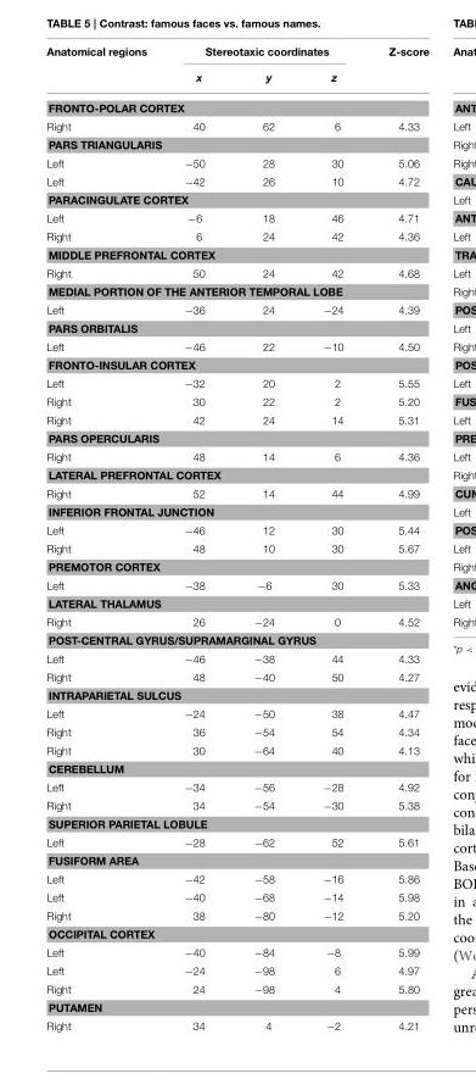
<table><thead><tr><td rowspan="2">Anatomical regions</td><td colspan="3">Stereotaxic coordinates</td><td rowspan="2">Z-score</td></tr><tr><td>x</td><td>y</td><td>z</td></tr></thead><tbody><tr><td colspan="5">FRONTO-POLAR CORTEX</td></tr><tr><td>Right</td><td>40</td><td>62</td><td>6</td><td>4.33</td></tr><tr><td colspan="5">PARS TRIANGULARIS</td></tr><tr><td>Left</td><td>−50</td><td>28</td><td>30</td><td>5.06</td></tr><tr><td>Left</td><td>−42</td><td>26</td><td>10</td><td>4.72</td></tr><tr><td colspan="5">PARACINGULATE CORTEX</td></tr><tr><td>Left</td><td>−6</td><td>18</td><td>46</td><td>4.71</td></tr><tr><td>Right</td><td>6</td><td>24</td><td>42</td><td>4.36</td></tr><tr><td colspan="5">MIDDLE PREFRONTAL CORTEX</td></tr><tr><td>Right</td><td>50</td><td>24</td><td>42</td><td>4.68</td></tr><tr><td colspan="5">MEDIAL PORTION OF THE ANTERIOR TEMPORAL LOBE</td></tr><tr><td>Left</td><td>−36</td><td>24</td><td>−24</td><td>4.39</td></tr><tr><td colspan="5">PARS ORBITALIS</td></tr><tr><td>Left</td><td>−46</td><td>22</td><td>−10</td><td>4.50</td></tr><tr><td colspan="5">FRONTO-INSULAR CORTEX</td></tr><tr><td>Left</td><td>−32</td><td>20</td><td>2</td><td>5.55</td></tr><tr><td>Right</td><td>30</td><td>22</td><td>2</td><td>5.20</td></tr><tr><td>Right</td><td>42</td><td>24</td><td>14</td><td>5.31</td></tr><tr><td colspan="5">PARS OPERCULARIS</td></tr><tr><td>Right</td><td>48</td><td>14</td><td>6</td><td>4.36</td></tr><tr><td colspan="5">LATERAL PREFRONTAL CORTEX</td></tr><tr><td>Right</td><td>52</td><td>14</td><td>44</td><td>4.99</td></tr><tr><td colspan="5">INFERIOR FRONTAL JUNCTION</td></tr><tr><td>Left</td><td>−46</td><td>12</td><td>30</td><td>5.44</td></tr><tr><td>Right</td><td>48</td><td>10</td><td>30</td><td>5.67</td></tr><tr><td colspan="5">PREMOTOR CORTEX</td></tr><tr><td>Left</td><td>−38</td><td>−6</td><td>30</td><td>5.33</td></tr><tr><td colspan="5">LATERAL THALAMUS</td></tr><tr><td>Right</td><td>26</td><td>−24</td><td>0</td><td>4.52</td></tr><tr><td colspan="5">POST-CENTRAL GYRUS/SUPRAMARGINAL GYRUS</td></tr><tr><td>Left</td><td>−46</td><td>−38</td><td>44</td><td>4.33</td></tr><tr><td>Right</td><td>48</td><td>−40</td><td>50</td><td>4.27</td></tr><tr><td colspan="5">INTRAPARIETAL SULCUS</td></tr><tr><td>Left</td><td>−24</td><td>−50</td><td>38</td><td>4.47</td></tr><tr><td>Right</td><td>36</td><td>−54</td><td>54</td><td>4.34</td></tr><tr><td>Right</td><td>30</td><td>−64</td><td>40</td><td>4.13</td></tr><tr><td colspan="5">CEREBELLUM</td></tr><tr><td>Left</td><td>−34</td><td>−56</td><td>−28</td><td>4.92</td></tr><tr><td>Right</td><td>34</td><td>−54</td><td>−30</td><td>5.38</td></tr><tr><td colspan="5">SUPERIOR PARIETAL LOBULE</td></tr><tr><td>Left</td><td>−28</td><td>−62</td><td>52</td><td>5.61</td></tr><tr><td colspan="5">FUSIFORM AREA</td></tr><tr><td>Left</td><td>−42</td><td>−58</td><td>−16</td><td>5.86</td></tr><tr><td>Left</td><td>−40</td><td>−68</td><td>−14</td><td>5.98</td></tr><tr><td>Right</td><td>38</td><td>−80</td><td>−12</td><td>5.20</td></tr><tr><td colspan="5">OCCIPITAL CORTEX</td></tr><tr><td>Left</td><td>−40</td><td>−84</td><td>−8</td><td>5.99</td></tr><tr><td>Left</td><td>−24</td><td>−98</td><td>6</td><td>4.97</td></tr><tr><td>Right</td><td>24</td><td>−98</td><td>4</td><td>5.80</td></tr><tr><td colspan="5">PUTAMEN</td></tr><tr><td>Right</td><td>34</td><td>4</td><td>−2</td><td>4.21</td></tr></tbody></table>